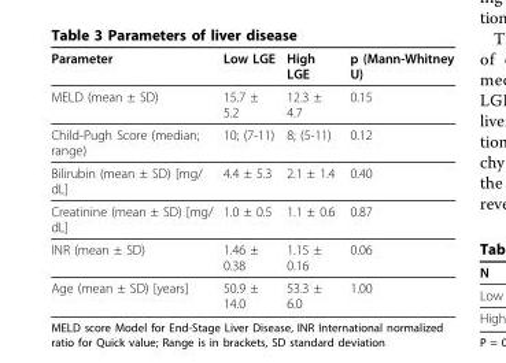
<table><thead><tr><td>Parameter</td><td>Low LGE</td><td>High LGE</td><td>p (Mann-Whitney U)</td></tr></thead><tbody><tr><td>MELD (mean ± SD)</td><td>15.7 ± 5.2</td><td>12.3 ± 4.7</td><td>0.15</td></tr><tr><td>Child-Pugh Score (median; range)</td><td>10; (7-11)</td><td>8; (5-11)</td><td>0.12</td></tr><tr><td>Bilirubin (mean ± SD) [mg/ dL]</td><td>4.4 ± 5.3</td><td>2.1 ± 1.4</td><td>0.40</td></tr><tr><td>Creatinine (mean ± SD) [mg/ dL]</td><td>1.0 ± 0.5</td><td>1.1 ± 0.6</td><td>0.87</td></tr><tr><td>INR (mean ± SD)</td><td>1.46 ± 0.38</td><td>1.15 ± 0.16</td><td>0.06</td></tr><tr><td>Age (mean ± SD) [years]</td><td>50.9 ± 14.0</td><td>53.3 ± 6.0</td><td>1.00</td></tr></tbody></table>